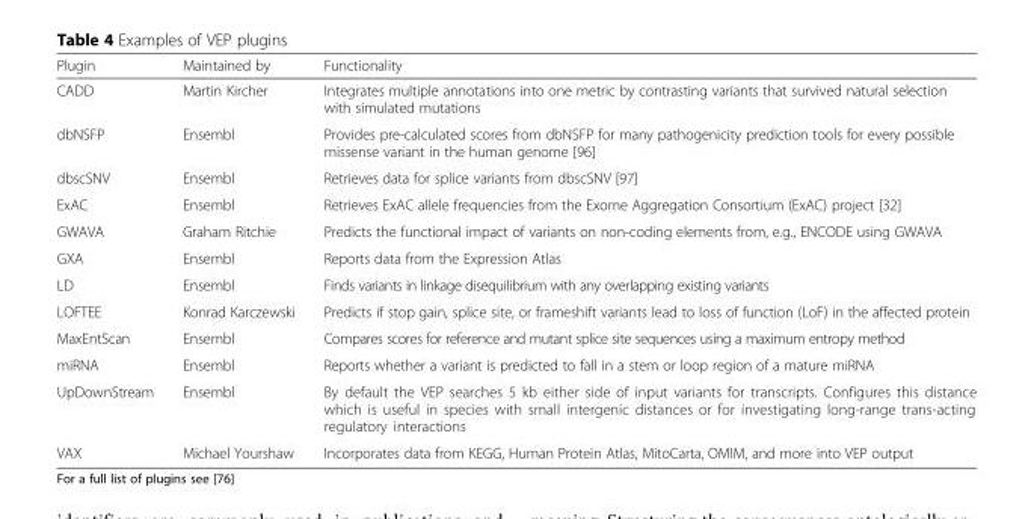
<table><thead><tr><td>Plugin</td><td>Maintained by</td><td>Functionality</td></tr></thead><tbody><tr><td>CADD</td><td>Martin Kircher</td><td>Integrates multiple annotations into one metric by contrasting variants that survived natural selection with simulated mutations</td></tr><tr><td>dbNSFP</td><td>Ensembl</td><td>Provides pre-calculated scores from dbNSFP for many pathogenicity prediction tools for every possible missense variant in the human genome [96]</td></tr><tr><td>dbscSNV</td><td>Ensembl</td><td>Retrieves data for splice variants from dbscSNV [97]</td></tr><tr><td>ExAC</td><td>Ensembl</td><td>Retrieves ExAC allele frequencies from the Exome Aggregation Consortium (ExAC) project [32]</td></tr><tr><td>GWAVA</td><td>Graham Ritchie</td><td>Predicts the functional impact of variants on non-coding elements from, e.g., ENCODE using GWAVA</td></tr><tr><td>GXA</td><td>Ensembl</td><td>Reports data from the Expression Atlas</td></tr><tr><td>LD</td><td>Ensembl</td><td>Finds variants in linkage disequilibrium with any overlapping existing variants</td></tr><tr><td>LOFTEE</td><td>Konrad Karczewski</td><td>Predicts if stop gain, splice site, or frameshift variants lead to loss of function (LoF) in the affected protein</td></tr><tr><td>MaxEntScan</td><td>Ensembl</td><td>Compares scores for reference and mutant splice site sequences using a maximum entropy method</td></tr><tr><td>miRNA</td><td>Ensembl</td><td>Reports whether a variant is predicted to fall in a stem or loop region of a mature miRNA</td></tr><tr><td>UpDownStream</td><td>Ensembl</td><td>By default the VEP searches 5 kb either side of input variants for transcripts. Configures this distance which is useful in species with small intergenic distances or for investigating long-range trans-acting regulatory interactions</td></tr><tr><td>VAX</td><td>Michael Yourshaw</td><td>Incorporates data from KEGG, Human Protein Atlas, MitoCarta, OMIM, and more into VEP output</td></tr></tbody></table>